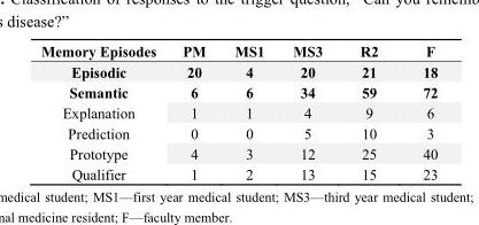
<table><thead><tr><td>Memory Episodes</td><td>PM</td><td>MS1</td><td>MS3</td><td>R2</td><td>F</td></tr></thead><tbody><tr><td>Episodic</td><td>20</td><td>4</td><td>20</td><td>21</td><td>18</td></tr><tr><td>Semantic</td><td>6</td><td>6</td><td>34</td><td>59</td><td>72</td></tr><tr><td>Explanation</td><td>1</td><td>1</td><td>4</td><td>9</td><td>6</td></tr><tr><td>Prediction</td><td>0</td><td>0</td><td>5</td><td>10</td><td>3</td></tr><tr><td>Prototype</td><td>4</td><td>3</td><td>12</td><td>25</td><td>40</td></tr><tr><td>Qualifier</td><td>1</td><td>2</td><td>13</td><td>15</td><td>23</td></tr></tbody></table>